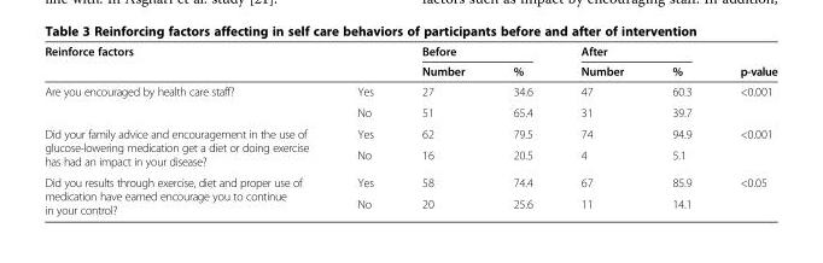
<table><thead><tr><td rowspan="2">Reinforce factors</td><td rowspan="2"></td><td colspan="2">Before</td><td colspan="2">After</td><td rowspan="2">p-value</td></tr><tr><td>Number</td><td>%</td><td>Number</td><td>%</td></tr></thead><tbody><tr><td rowspan="2">Are you encouraged by health care staff?</td><td>Yes</td><td>27</td><td>34.6</td><td>47</td><td>60.3</td><td rowspan="2">&lt;0.001</td></tr><tr><td>No</td><td>51</td><td>65.4</td><td>31</td><td>39.7</td></tr><tr><td rowspan="2">Did your family advice and encouragement in the use of glucose-lowering medication get a diet or doing exercise has had an impact in your disease?</td><td>Yes</td><td>62</td><td>79.5</td><td>74</td><td>94.9</td><td rowspan="2">&lt;0.001</td></tr><tr><td>No</td><td>16</td><td>20.5</td><td>4</td><td>5.1</td></tr><tr><td rowspan="2">Did you results through exercise, diet and proper use of medication have earned encourage you to continue in your control?</td><td>Yes</td><td>58</td><td>74.4</td><td>67</td><td>85.9</td><td rowspan="2">&lt;0.05</td></tr><tr><td>No</td><td>20</td><td>25.6</td><td>11</td><td>14.1</td></tr></tbody></table>